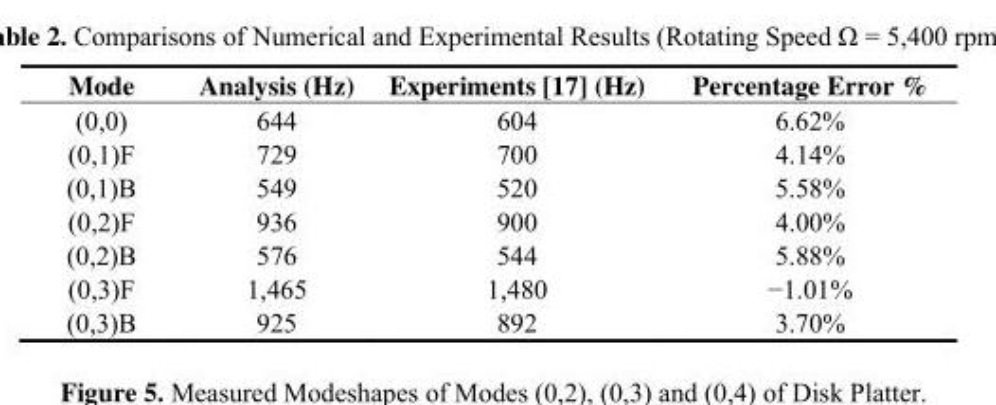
<table><thead><tr><td>Mode</td><td>Analysis (Hz)</td><td>Experiments [17] (Hz)</td><td>Percentage Error %</td></tr></thead><tbody><tr><td>(0,0)</td><td>644</td><td>604</td><td>6.62%</td></tr><tr><td>(0,1)F</td><td>729</td><td>700</td><td>4.14%</td></tr><tr><td>(0,1)B</td><td>549</td><td>520</td><td>5.58%</td></tr><tr><td>(0,2)F</td><td>936</td><td>900</td><td>4.00%</td></tr><tr><td>(0,2)B</td><td>576</td><td>544</td><td>5.88%</td></tr><tr><td>(0,3)F</td><td>1,465</td><td>1,480</td><td>−1.01%</td></tr><tr><td>(0,3)B</td><td>925</td><td>892</td><td>3.70%</td></tr></tbody></table>